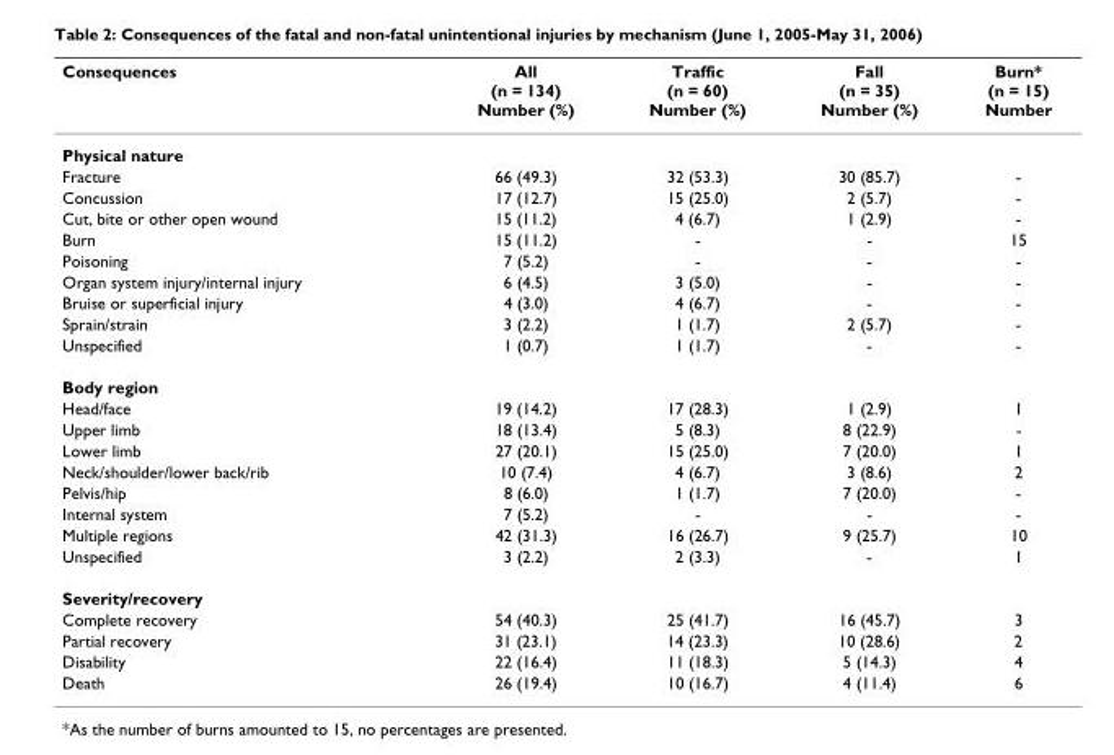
<table><thead><tr><td>Consequences</td><td>All (n = 134) Number (%)</td><td>Traffic (n = 60) Number (%)</td><td>Fall (n = 35) Number (%)</td><td>Burn* (n = 15) Number</td></tr></thead><tbody><tr><td colspan="5">Physical nature</td></tr><tr><td>Fracture</td><td>66 (49.3)</td><td>32 (53.3)</td><td>30 (85.7)</td><td>-</td></tr><tr><td>Concussion</td><td>17 (12.7)</td><td>15 (25.0)</td><td>2 (5.7)</td><td>-</td></tr><tr><td>Cut, bite or other open wound</td><td>15 (11.2)</td><td>4 (6.7)</td><td>1 (2.9)</td><td>-</td></tr><tr><td>Burn</td><td>15 (11.2)</td><td>-</td><td>-</td><td>15</td></tr><tr><td>Poisoning</td><td>7 (5.2)</td><td>-</td><td>-</td><td>-</td></tr><tr><td>Organ system injury/internal injury</td><td>6 (4.5)</td><td>3 (5.0)</td><td>-</td><td>-</td></tr><tr><td>Bruise or superficial injury</td><td>4 (3.0)</td><td>4 (6.7)</td><td>-</td><td>-</td></tr><tr><td>Sprain/strain</td><td>3 (2.2)</td><td>1 (1.7)</td><td>2 (5.7)</td><td>-</td></tr><tr><td>Unspecified</td><td>1 (0.7)</td><td>1 (1.7)</td><td>-</td><td>-</td></tr><tr><td colspan="5">Body region</td></tr><tr><td>Head/face</td><td>19 (14.2)</td><td>17 (28.3)</td><td>1 (2.9)</td><td>1</td></tr><tr><td>Upper limb</td><td>18 (13.4)</td><td>5 (8.3)</td><td>8 (22.9)</td><td>-</td></tr><tr><td>Lower limb</td><td>27 (20.1)</td><td>15 (25.0)</td><td>7 (20.0)</td><td>1</td></tr><tr><td>Neck/shoulder/lower back/rib</td><td>10 (7.4)</td><td>4 (6.7)</td><td>3 (8.6)</td><td>2</td></tr><tr><td>Pelvis/hip</td><td>8 (6.0)</td><td>1 (1.7)</td><td>7 (20.0)</td><td>-</td></tr><tr><td>Internal system</td><td>7 (5.2)</td><td>-</td><td>-</td><td>-</td></tr><tr><td>Multiple regions</td><td>42 (31.3)</td><td>16 (26.7)</td><td>9 (25.7)</td><td>10</td></tr><tr><td>Unspecified</td><td>3 (2.2)</td><td>2 (3.3)</td><td>-</td><td>1</td></tr><tr><td colspan="5">Severity/recovery</td></tr><tr><td>Complete recovery</td><td>54 (40.3)</td><td>25 (41.7)</td><td>16 (45.7)</td><td>3</td></tr><tr><td>Partial recovery</td><td>31 (23.1)</td><td>14 (23.3)</td><td>10 (28.6)</td><td>2</td></tr><tr><td>Disability</td><td>22 (16.4)</td><td>11 (18.3)</td><td>5 (14.3)</td><td>4</td></tr><tr><td>Death</td><td>26 (19.4)</td><td>10 (16.7)</td><td>4 (11.4)</td><td>6</td></tr></tbody></table>